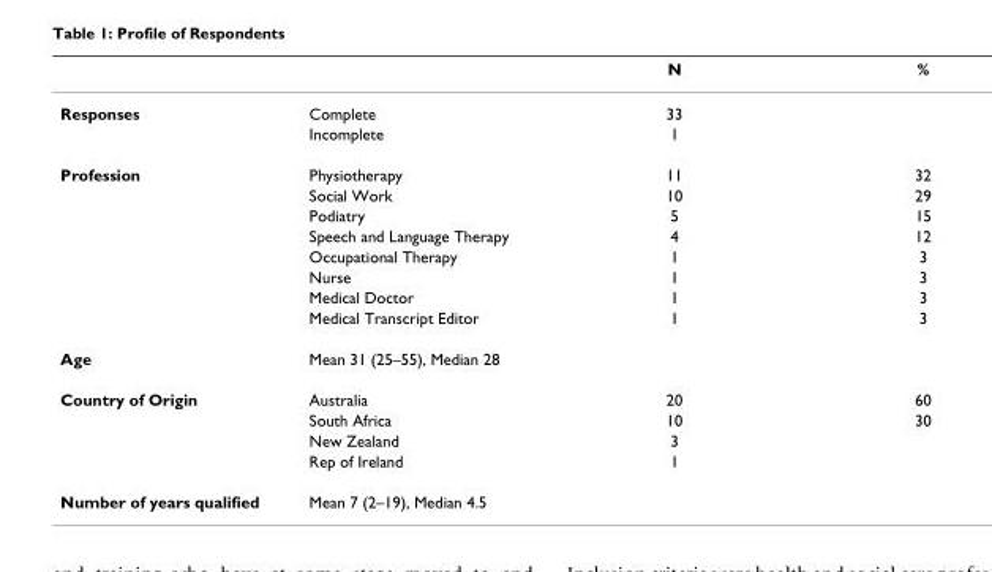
<table><thead><tr><td></td><td></td><td>N</td><td>%</td></tr></thead><tbody><tr><td rowspan="2">Responses</td><td>Complete</td><td>33</td><td></td></tr><tr><td>Incomplete</td><td>1</td><td></td></tr><tr><td rowspan="8">Profession</td><td>Physiotherapy</td><td>11</td><td>32</td></tr><tr><td>Social Work</td><td>10</td><td>29</td></tr><tr><td>Podiatry</td><td>5</td><td>15</td></tr><tr><td>Speech and Language Therapy</td><td>4</td><td>12</td></tr><tr><td>Occupational Therapy</td><td>1</td><td>3</td></tr><tr><td>Nurse</td><td>1</td><td>3</td></tr><tr><td>Medical Doctor</td><td>1</td><td>3</td></tr><tr><td>Medical Transcript Editor</td><td>1</td><td>3</td></tr><tr><td>Age</td><td>Mean 31 (25–55), Median 28</td><td></td><td></td></tr><tr><td rowspan="4">Country of Origin</td><td>Australia</td><td>20</td><td>60</td></tr><tr><td>South Africa</td><td>10</td><td>30</td></tr><tr><td>New Zealand</td><td>3</td><td></td></tr><tr><td>Rep of Ireland</td><td>1</td><td></td></tr><tr><td>Number of years qualified</td><td>Mean 7 (2–19), Median 4.5</td><td></td><td></td></tr></tbody></table>